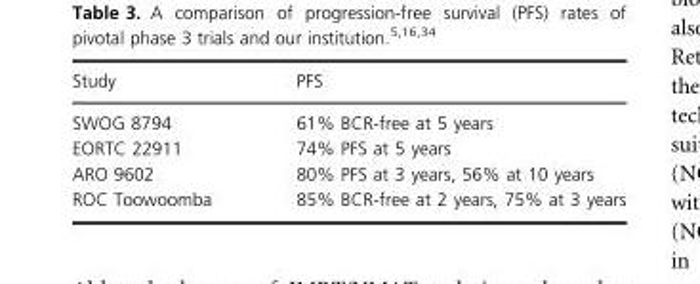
<table><thead><tr><td>Study</td><td>PFS</td></tr></thead><tbody><tr><td>SWOG 8794</td><td>61% BCR-free at 5 years</td></tr><tr><td>EORTC 22911</td><td>74% PFS at 5 years</td></tr><tr><td>ARO 9602</td><td>80% PFS at 3 years, 56% at 10 years</td></tr><tr><td>ROC Toowoomba</td><td>85% BCR-free at 2 years, 75% at 3 years</td></tr></tbody></table>